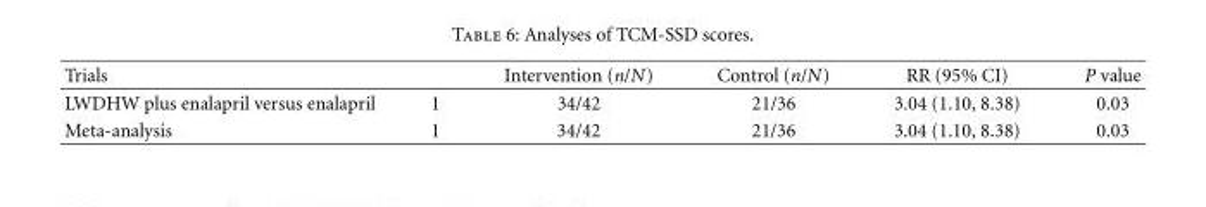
<table><thead><tr><td>Trials</td><td></td><td>Intervention (n/N)</td><td>Control (n/N)</td><td>RR (95% CI)</td><td>P value</td></tr></thead><tbody><tr><td>LWDHW plus enalapril versus enalapril</td><td>1</td><td>34/42</td><td>21/36</td><td>3.04 (1.10, 8.38)</td><td>0.03</td></tr><tr><td>Meta-analysis</td><td>1</td><td>34/42</td><td>21/36</td><td>3.04 (1.10, 8.38)</td><td>0.03</td></tr></tbody></table>